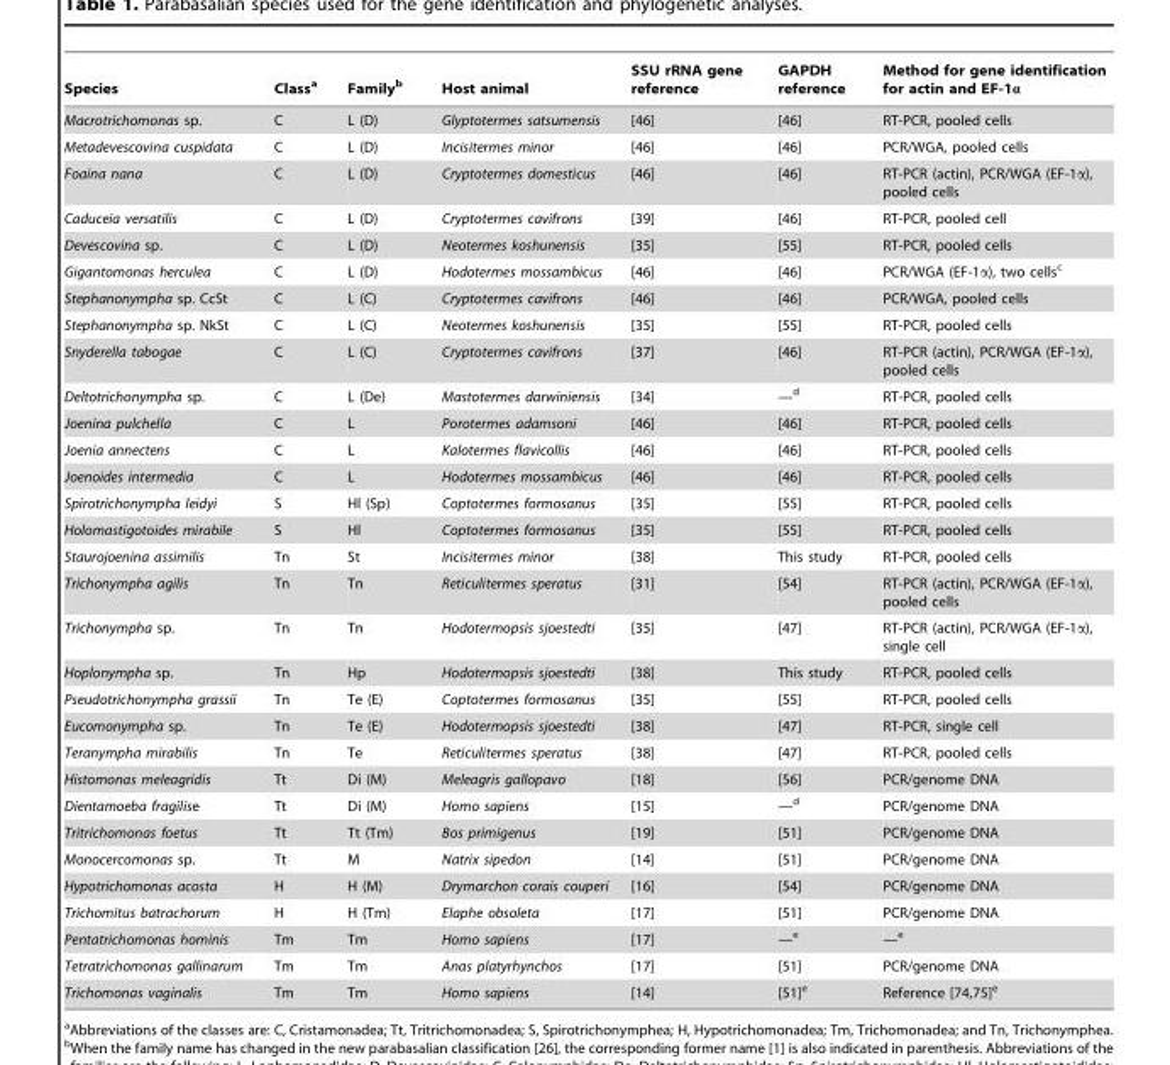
<table><thead><tr><td>Species</td><td>Class<sup>a</sup></td><td>Family<sup>b</sup></td><td>Host animal</td><td>SSU rRNA gene reference</td><td>GAPDH reference</td><td>Method for gene identification for actin and EF-1α</td></tr></thead><tbody><tr><td>Macrotrichomonas sp.</td><td>C</td><td>L (D)</td><td>Glyptotermes satsumensis</td><td>[46]</td><td>[46]</td><td>RT-PCR, pooled cells</td></tr><tr><td>Metadevescovina cuspidata</td><td>C</td><td>L (D)</td><td>Incisitermes minor</td><td>[46]</td><td>[46]</td><td>PCR/WGA, pooled cells</td></tr><tr><td>Foaina nana</td><td>C</td><td>L (D)</td><td>Cryptotermes domesticus</td><td>[46]</td><td>[46]</td><td>RT-PCR (actin), PCR/WGA (EF-1α), pooled cells</td></tr><tr><td>Caduceia versatilis</td><td>C</td><td>L (D)</td><td>Cryptotermes cavifrons</td><td>[39]</td><td>[46]</td><td>RT-PCR, pooled cell</td></tr><tr><td>Devescovina sp.</td><td>C</td><td>L (D)</td><td>Neotermes koshunensis</td><td>[35]</td><td>[55]</td><td>RT-PCR, pooled cells</td></tr><tr><td>Gigantomonas herculea</td><td>C</td><td>L (D)</td><td>Hodotermes mossambicus</td><td>[46]</td><td>[46]</td><td>PCR/WGA (EF-1α), two cells<sup>c</sup></td></tr><tr><td>Stephanonympha sp. CcSt</td><td>C</td><td>L (C)</td><td>Cryptotermes cavifrons</td><td>[46]</td><td>[46]</td><td>PCR/WGA, pooled cells</td></tr><tr><td>Stephanonympha sp. NkSt</td><td>C</td><td>L (C)</td><td>Neotermes koshunensis</td><td>[35]</td><td>[55]</td><td>RT-PCR, pooled cells</td></tr><tr><td>Snyderella tabogae</td><td>C</td><td>L (C)</td><td>Cryptotermes cavifrons</td><td>[37]</td><td>[46]</td><td>RT-PCR (actin), PCR/WGA (EF-1α), pooled cells</td></tr><tr><td>Deltotrichonympha sp.</td><td>C</td><td>L (De)</td><td>Mastotermes darwiniensis</td><td>[34]</td><td>—d</td><td>RT-PCR, pooled cells</td></tr><tr><td>Joenina pulchella</td><td>C</td><td>L</td><td>Porotermes adamsoni</td><td>[46]</td><td>[46]</td><td>RT-PCR, pooled cells</td></tr><tr><td>Joenia annectens</td><td>C</td><td>L</td><td>Kalotermes flavicollis</td><td>[46]</td><td>[46]</td><td>RT-PCR, pooled cells</td></tr><tr><td>Joenoides intermedia</td><td>C</td><td>L</td><td>Hodotermes mossambicus</td><td>[46]</td><td>[46]</td><td>RT-PCR, pooled cells</td></tr><tr><td>Spirotrichonympha leidyi</td><td>S</td><td>Hl (Sp)</td><td>Coptotermes formosanus</td><td>[35]</td><td>[55]</td><td>RT-PCR, pooled cells</td></tr><tr><td>Holomastigotoides mirabile</td><td>S</td><td>Hl</td><td>Coptotermes formosanus</td><td>[35]</td><td>[55]</td><td>RT-PCR, pooled cells</td></tr><tr><td>Staurojoenina assimilis</td><td>Tn</td><td>St</td><td>Incisitermes minor</td><td>[38]</td><td>This study</td><td>RT-PCR, pooled cells</td></tr><tr><td>Trichonympha agilis</td><td>Tn</td><td>Tn</td><td>Reticulitermes speratus</td><td>[31]</td><td>[54]</td><td>RT-PCR (actin), PCR/WGA (EF-1α), pooled cells</td></tr><tr><td>Trichonympha sp.</td><td>Tn</td><td>Tn</td><td>Hodotermopsis sjoestedti</td><td>[35]</td><td>[47]</td><td>RT-PCR (actin), PCR/WGA (EF-1α), single cell</td></tr><tr><td>Hoplonympha sp.</td><td>Tn</td><td>Hp</td><td>Hodotermopsis sjoestedti</td><td>[38]</td><td>This study</td><td>RT-PCR, pooled cells</td></tr><tr><td>Pseudotrichonympha grassii</td><td>Tn</td><td>Te (E)</td><td>Coptotermes formosanus</td><td>[35]</td><td>[55]</td><td>RT-PCR, pooled cells</td></tr><tr><td>Eucomonympha sp.</td><td>Tn</td><td>Te (E)</td><td>Hodotermopsis sjoestedti</td><td>[38]</td><td>[47]</td><td>RT-PCR, single cell</td></tr><tr><td>Teranympha mirabilis</td><td>Tn</td><td>Te</td><td>Reticulitermes speratus</td><td>[38]</td><td>[47]</td><td>RT-PCR, pooled cells</td></tr><tr><td>Histomonas meleagridis</td><td>Tt</td><td>Di (M)</td><td>Meleagris gallopavo</td><td>[18]</td><td>[56]</td><td>PCR/genome DNA</td></tr><tr><td>Dientamoeba fragilise</td><td>Tt</td><td>Di (M)</td><td>Homo sapiens</td><td>[15]</td><td>—d</td><td>PCR/genome DNA</td></tr><tr><td>Tritrichomonas foetus</td><td>Tt</td><td>Tt (Tm)</td><td>Bos primigenus</td><td>[19]</td><td>[51]</td><td>PCR/genome DNA</td></tr><tr><td>Monocercomonas sp.</td><td>Tt</td><td>M</td><td>Natrix sipedon</td><td>[14]</td><td>[51]</td><td>PCR/genome DNA</td></tr><tr><td>Hypotrichomonas acosta</td><td>H</td><td>H (M)</td><td>Drymarchon corais couperi</td><td>[16]</td><td>[54]</td><td>PCR/genome DNA</td></tr><tr><td>Trichomitus batrachorum</td><td>H</td><td>H (Tm)</td><td>Elaphe obsoleta</td><td>[17]</td><td>[51]</td><td>PCR/genome DNA</td></tr><tr><td>Pentatrichomonas hominis</td><td>Tm</td><td>Tm</td><td>Homo sapiens</td><td>[17]</td><td>—e</td><td>—e</td></tr><tr><td>Tetratrichomonas gallinarum</td><td>Tm</td><td>Tm</td><td>Anas platyrhynchos</td><td>[17]</td><td>[51]</td><td>PCR/genome DNA</td></tr><tr><td>Trichomonas vaginalis</td><td>Tm</td><td>Tm</td><td>Homo sapiens</td><td>[14]</td><td>[51]e</td><td>Reference [74,75]e</td></tr></tbody></table>